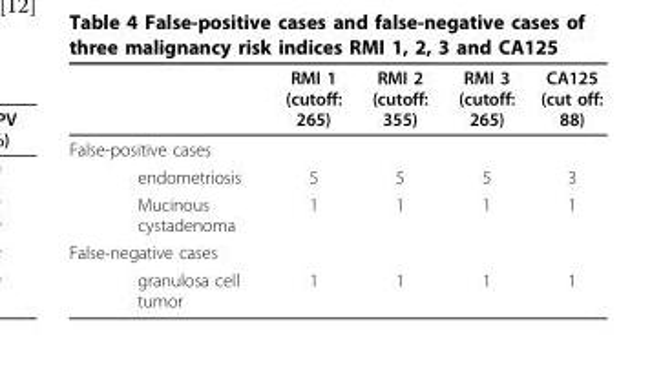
<table><thead><tr><td></td><td>RMI 1 (cutoff: 265)</td><td>RMI 2 (cutoff: 355)</td><td>RMI 3 (cutoff: 265)</td><td>CA125 (cut off: 88)</td></tr></thead><tbody><tr><td colspan="5">False-positive cases</td></tr><tr><td>endometriosis</td><td>5</td><td>5</td><td>5</td><td>3</td></tr><tr><td>Mucinous cystadenoma</td><td>1</td><td>1</td><td>1</td><td>1</td></tr><tr><td colspan="5">False-negative cases</td></tr><tr><td>granulosa cell tumor</td><td>1</td><td>1</td><td>1</td><td>1</td></tr></tbody></table>